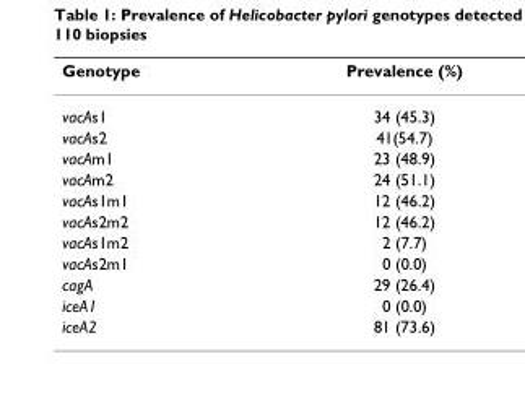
<table><thead><tr><td>Genotype</td><td>Prevalence (%)</td></tr></thead><tbody><tr><td>vacAs1</td><td>34 (45.3)</td></tr><tr><td>vacAs2</td><td>41(54.7)</td></tr><tr><td>vacAm1</td><td>23 (48.9)</td></tr><tr><td>vacAm2</td><td>24 (51.1)</td></tr><tr><td>vacAs1m1</td><td>12 (46.2)</td></tr><tr><td>vacAs2m2</td><td>12 (46.2)</td></tr><tr><td>vacAs1m2</td><td>2 (7.7)</td></tr><tr><td>vacAs2m1</td><td>0 (0.0)</td></tr><tr><td>cagA</td><td>29 (26.4)</td></tr><tr><td>iceA1</td><td>0 (0.0)</td></tr><tr><td>iceA2</td><td>81 (73.6)</td></tr></tbody></table>